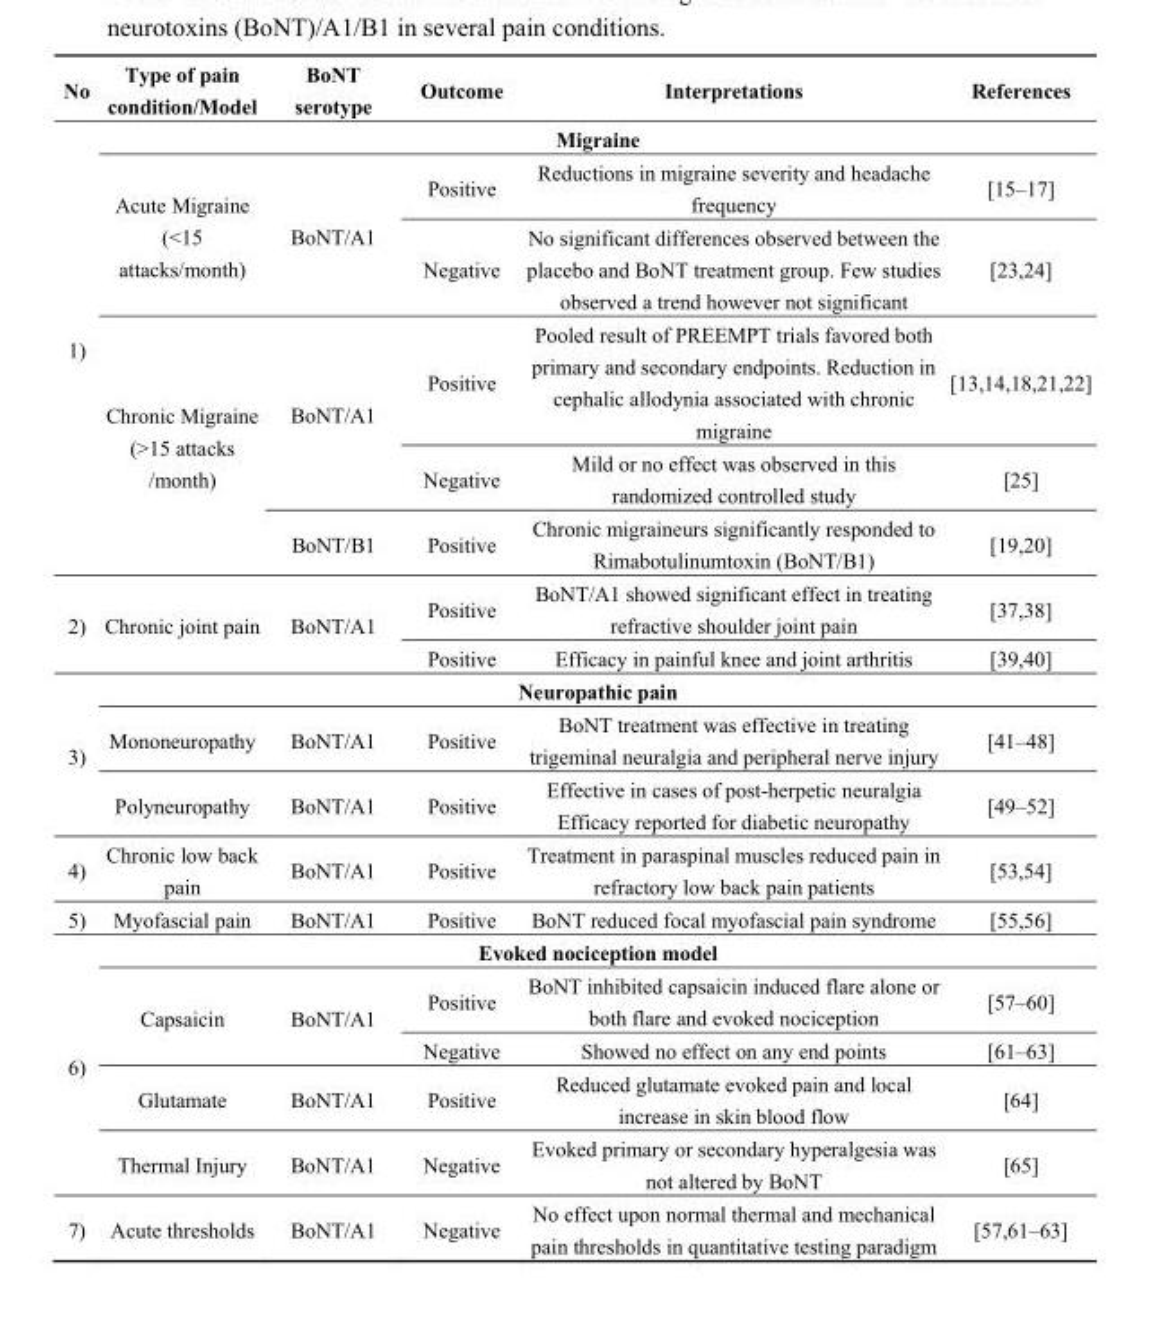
<table><thead><tr><td>No</td><td>Type of pain condition/Model</td><td>BoNT serotype</td><td>Outcome</td><td>Interpretations</td><td>References</td></tr></thead><tbody><tr><td rowspan="6">1)</td><td colspan="5">Migraine</td></tr><tr><td rowspan="2">Acute Migraine (&lt;15 attacks/month)</td><td rowspan="2">BoNT/A1</td><td>Positive</td><td>Reductions in migraine severity and headache frequency</td><td>[15–17]</td></tr><tr><td>Negative</td><td>No significant differences observed between the placebo and BoNT treatment group. Few studies observed a trend however not significant</td><td>[23,24]</td></tr><tr><td rowspan="3">Chronic Migraine (&gt;15 attacks /month)</td><td rowspan="2">BoNT/A1</td><td>Positive</td><td>Pooled result of PREEMPT trials favored both primary and secondary endpoints. Reduction in cephalic allodynia associated with chronic migraine</td><td>[13,14,18,21,22]</td></tr><tr><td>Negative</td><td>Mild or no effect was observed in this randomized controlled study</td><td>[25]</td></tr><tr><td>BoNT/B1</td><td>Positive</td><td>Chronic migraineurs significantly responded to Rimabotulinumtoxin (BoNT/B1)</td><td>[19,20]</td></tr><tr><td rowspan="2">2)</td><td rowspan="2">Chronic joint pain</td><td rowspan="2">BoNT/A1</td><td>Positive</td><td>BoNT/A1 showed significant effect in treating refractive shoulder joint pain</td><td>[37,38]</td></tr><tr><td>Positive</td><td>Efficacy in painful knee and joint arthritis</td><td>[39,40]</td></tr><tr><td rowspan="3">3)</td><td colspan="5">Neuropathic pain</td></tr><tr><td>Mononeuropathy</td><td>BoNT/A1</td><td>Positive</td><td>BoNT treatment was effective in treating trigeminal neuralgia and peripheral nerve injury</td><td>[41–48]</td></tr><tr><td>Polyneuropathy</td><td>BoNT/A1</td><td>Positive</td><td>Effective in cases of post-herpetic neuralgia Efficacy reported for diabetic neuropathy</td><td>[49–52]</td></tr><tr><td>4)</td><td>Chronic low back pain</td><td>BoNT/A1</td><td>Positive</td><td>Treatment in paraspinal muscles reduced pain in refractory low back pain patients</td><td>[53,54]</td></tr><tr><td>5)</td><td>Myofascial pain</td><td>BoNT/A1</td><td>Positive</td><td>BoNT reduced focal myofascial pain syndrome</td><td>[55,56]</td></tr><tr><td rowspan="5">6)</td><td colspan="5">Evoked nociception model</td></tr><tr><td rowspan="2">Capsaicin</td><td rowspan="2">BoNT/A1</td><td>Positive</td><td>BoNT inhibited capsaicin induced flare alone or both flare and evoked nociception</td><td>[57–60]</td></tr><tr><td>Negative</td><td>Showed no effect on any end points</td><td>[61–63]</td></tr><tr><td>Glutamate</td><td>BoNT/A1</td><td>Positive</td><td>Reduced glutamate evoked pain and local increase in skin blood flow</td><td>[64]</td></tr><tr><td>Thermal Injury</td><td>BoNT/A1</td><td>Negative</td><td>Evoked primary or secondary hyperalgesia was not altered by BoNT</td><td>[65]</td></tr><tr><td>7)</td><td>Acute thresholds</td><td>BoNT/A1</td><td>Negative</td><td>No effect upon normal thermal and mechanical pain thresholds in quantitative testing paradigm</td><td>[57,61–63]</td></tr></tbody></table>